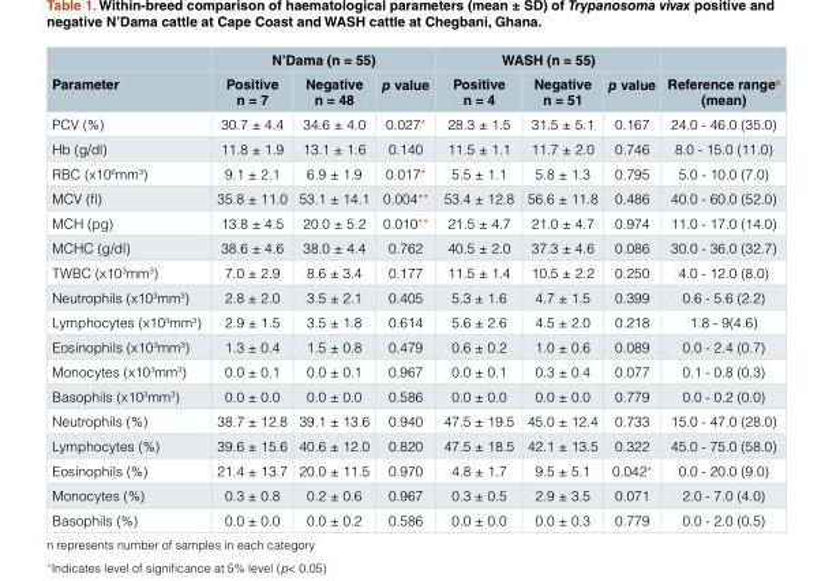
<table><thead><tr><td rowspan="2">Parameter</td><td colspan="3">N’Dama (n = 55)</td><td colspan="3">WASH (n = 55)</td><td rowspan="2">Reference range<sup>a</sup> (mean)</td></tr><tr><td>Positive n = 7</td><td>Negative n = 48</td><td>p value</td><td>Positive n = 4</td><td>Negative n = 51</td><td>p value</td></tr></thead><tbody><tr><td>PCV (%)</td><td>30.7 ± 4.4</td><td>34.6 ± 4.0</td><td>0.027*</td><td>28.3 ± 1.5</td><td>31.5 ± 5.1</td><td>0.167</td><td>24.0 - 46.0 (35.0)</td></tr><tr><td>Hb (g/dl)</td><td>11.8 ± 1.9</td><td>13.1 ± 1.6</td><td>0.140</td><td>11.5 ± 1.1</td><td>11.7 ± 2.0</td><td>0.746</td><td>8.0 - 15.0 (11.0)</td></tr><tr><td>RBC (x10<sup>6</sup>mm<sup>3</sup>)</td><td>9.1 ± 2.1</td><td>6.9 ± 1.9</td><td>0.017*</td><td>5.5 ± 1.1</td><td>5.8 ± 1.3</td><td>0.795</td><td>5.0 - 10.0 (7.0)</td></tr><tr><td>MCV (fl)</td><td>35.8 ± 11.0</td><td>53.1 ± 14.1</td><td>0.004**</td><td>53.4 ± 12.8</td><td>56.6 ± 11.8</td><td>0.486</td><td>40.0 - 60.0 (52.0)</td></tr><tr><td>MCH (pg)</td><td>13.8 ± 4.5</td><td>20.0 ± 5.2</td><td>0.010**</td><td>21.5 ± 4.7</td><td>21.0 ± 4.7</td><td>0.974</td><td>11.0 - 17.0 (14.0)</td></tr><tr><td>MCHC (g/dl)</td><td>38.6 ± 4.6</td><td>38.0 ± 4.4</td><td>0.762</td><td>40.5 ± 2.0</td><td>37.3 ± 4.6</td><td>0.086</td><td>30.0 - 36.0 (32.7)</td></tr><tr><td>TWBC (x10<sup>3</sup>mm<sup>3</sup>)</td><td>7.0 ± 2.9</td><td>8.6 ± 3.4</td><td>0.177</td><td>11.5 ± 1.4</td><td>10.5 ± 2.2</td><td>0.250</td><td>4.0 - 12.0 (8.0)</td></tr><tr><td>Neutrophils (x10<sup>3</sup>mm<sup>3</sup>)</td><td>2.8 ± 2.0</td><td>3.5 ± 2.1</td><td>0.405</td><td>5.3 ± 1.6</td><td>4.7 ± 1.5</td><td>0.399</td><td>0.6 - 5.6 (2.2)</td></tr><tr><td>Lymphocytes (x10<sup>3</sup>mm<sup>3</sup>)</td><td>2.9 ± 1.5</td><td>3.5 ± 1.8</td><td>0.614</td><td>5.6 ± 2.6</td><td>4.5 ± 2.0</td><td>0.218</td><td>1.8 - 9(4.6)</td></tr><tr><td>Eosinophils (x10<sup>3</sup>mm<sup>3</sup>)</td><td>1.3 ± 0.4</td><td>1.5 ± 0.8</td><td>0.479</td><td>0.6 ± 0.2</td><td>1.0 ± 0.6</td><td>0.089</td><td>0.0 - 2.4 (0.7)</td></tr><tr><td>Monocytes (x10<sup>3</sup>mm<sup>3</sup>)</td><td>0.0 ± 0.1</td><td>0.0 ± 0.1</td><td>0.967</td><td>0.0 ± 0.1</td><td>0.3 ± 0.4</td><td>0.077</td><td>0.1 - 0.8 (0.3)</td></tr><tr><td>Basophils (x10<sup>3</sup>mm<sup>3</sup>)</td><td>0.0 ± 0.0</td><td>0.0 ± 0.0</td><td>0.586</td><td>0.0 ± 0.0</td><td>0.0 ± 0.0</td><td>0.779</td><td>0.0 - 0.2 (0.0)</td></tr><tr><td>Neutrophils (%)</td><td>38.7 ± 12.8</td><td>39.1 ± 13.6</td><td>0.940</td><td>47.5 ± 19.5</td><td>45.0 ± 12.4</td><td>0.733</td><td>15.0 - 47.0 (28.0)</td></tr><tr><td>Lymphocytes (%)</td><td>39.6 ± 15.6</td><td>40.6 ± 12.0</td><td>0.820</td><td>47.5 ± 18.5</td><td>42.1 ± 13.5</td><td>0.322</td><td>45.0 - 75.0 (58.0)</td></tr><tr><td>Eosinophils (%)</td><td>21.4 ± 13.7</td><td>20.0 ± 11.5</td><td>0.970</td><td>4.8 ± 1.7</td><td>9.5 ± 5.1</td><td>0.042*</td><td>0.0 - 20.0 (9.0)</td></tr><tr><td>Monocytes (%)</td><td>0.3 ± 0.8</td><td>0.2 ± 0.6</td><td>0.967</td><td>0.3 ± 0.5</td><td>2.9 ± 3.5</td><td>0.071</td><td>2.0 - 7.0 (4.0)</td></tr><tr><td>Basophils (%)</td><td>0.0 ± 0.0</td><td>0.0 ± 0.2</td><td>0.586</td><td>0.0 ± 0.0</td><td>0.0 ± 0.3</td><td>0.779</td><td>0.0 - 2.0 (0.5)</td></tr></tbody></table>